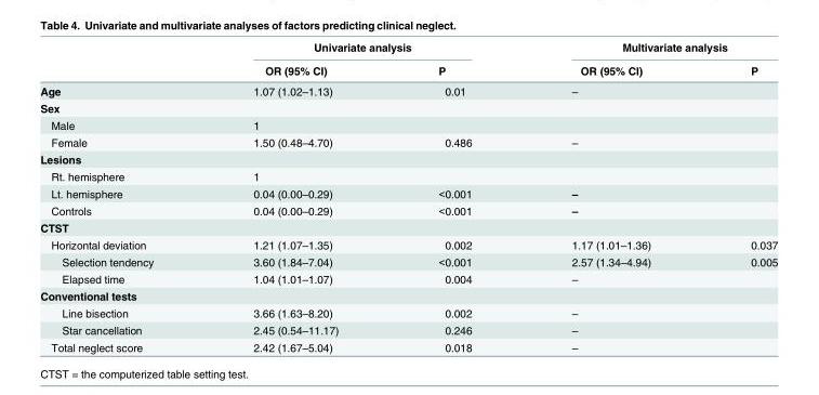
<table><thead><tr><td rowspan="2"></td><td colspan="2">Univariate analysis</td><td colspan="2">Multivariate analysis</td></tr><tr><td>OR (95% CI)</td><td>P</td><td>OR (95% CI)</td><td>P</td></tr></thead><tbody><tr><td>Age</td><td>1.07 (1.02–1.13)</td><td>0.01</td><td>–</td><td></td></tr><tr><td colspan="5">Sex</td></tr><tr><td>Male</td><td>1</td><td></td><td></td><td></td></tr><tr><td>Female</td><td>1.50 (0.48–4.70)</td><td>0.486</td><td>–</td><td></td></tr><tr><td colspan="5">Lesions</td></tr><tr><td>Rt. hemisphere</td><td>1</td><td></td><td></td><td></td></tr><tr><td>Lt. hemisphere</td><td>0.04 (0.00–0.29)</td><td>&lt;0.001</td><td>–</td><td></td></tr><tr><td>Controls</td><td>0.04 (0.00–0.29)</td><td>&lt;0.001</td><td>–</td><td></td></tr><tr><td colspan="5">CTST</td></tr><tr><td>Horizontal deviation</td><td>1.21 (1.07–1.35)</td><td>0.002</td><td>1.17 (1.01–1.36)</td><td>0.037</td></tr><tr><td>Selection tendency</td><td>3.60 (1.84–7.04)</td><td>&lt;0.001</td><td>2.57 (1.34–4.94)</td><td>0.005</td></tr><tr><td>Elapsed time</td><td>1.04 (1.01–1.07)</td><td>0.004</td><td>–</td><td></td></tr><tr><td colspan="5">Conventional tests</td></tr><tr><td>Line bisection</td><td>3.66 (1.63–8.20)</td><td>0.002</td><td>–</td><td></td></tr><tr><td>Star cancellation</td><td>2.45 (0.54–11.17)</td><td>0.246</td><td>–</td><td></td></tr><tr><td>Total neglect score</td><td>2.42 (1.67–5.04)</td><td>0.018</td><td>–</td><td></td></tr></tbody></table>